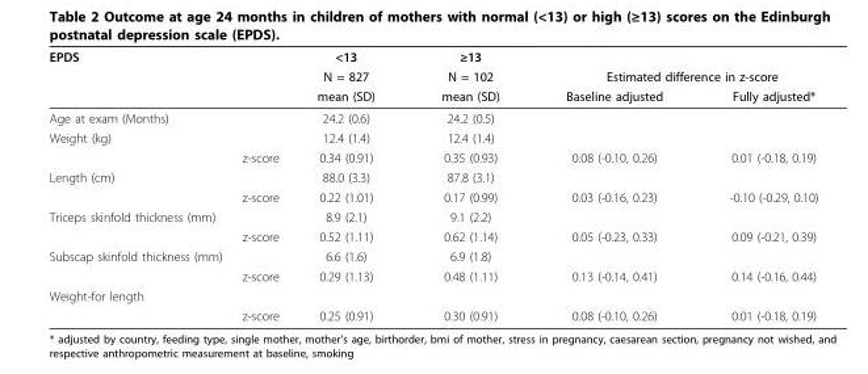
<table><thead><tr><td rowspan="3">EPDS</td><td rowspan="3">&lt;13 N = 827 mean (SD)</td><td rowspan="3">≥13 N = 102 mean (SD)</td><td></td><td></td></tr><tr><td colspan="2">Estimated difference in z-score</td></tr><tr><td>Baseline adjusted</td><td>Fully adjusted*</td></tr></thead><tbody><tr><td>Age at exam (Months)</td><td>24.2 (0.6)</td><td>24.2 (0.5)</td><td></td><td></td></tr><tr><td>Weight (kg)</td><td>12.4 (1.4)</td><td>12.4 (1.4)</td><td></td><td></td></tr><tr><td>z-score</td><td>0.34 (0.91)</td><td>0.35 (0.93)</td><td>0.08 (-0.10, 0.26)</td><td>0.01 (-0.18, 0.19)</td></tr><tr><td>Length (cm)</td><td>88.0 (3.3)</td><td>87.8 (3.1)</td><td></td><td></td></tr><tr><td>z-score</td><td>0.22 (1.01)</td><td>0.17 (0.99)</td><td>0.03 (-0.16, 0.23)</td><td>-0.10 (-0.29, 0.10)</td></tr><tr><td>Triceps skinfold thickness (mm)</td><td>8.9 (2.1)</td><td>9.1 (2.2)</td><td></td><td></td></tr><tr><td>z-score</td><td>0.52 (1.11)</td><td>0.62 (1.14)</td><td>0.05 (-0.23, 0.33)</td><td>0.09 (-0.21, 0.39)</td></tr><tr><td>Subscap skinfold thickness (mm)</td><td>6.6 (1.6)</td><td>6.9 (1.8)</td><td></td><td></td></tr><tr><td>z-score</td><td>0.29 (1.13)</td><td>0.48 (1.11)</td><td>0.13 (-0.14, 0.41)</td><td>0.14 (-0.16, 0.44)</td></tr><tr><td colspan="5">Weight-for length</td></tr><tr><td>z-score</td><td>0.25 (0.91)</td><td>0.30 (0.91)</td><td>0.08 (-0.10, 0.26)</td><td>0.01 (-0.18, 0.19)</td></tr></tbody></table>